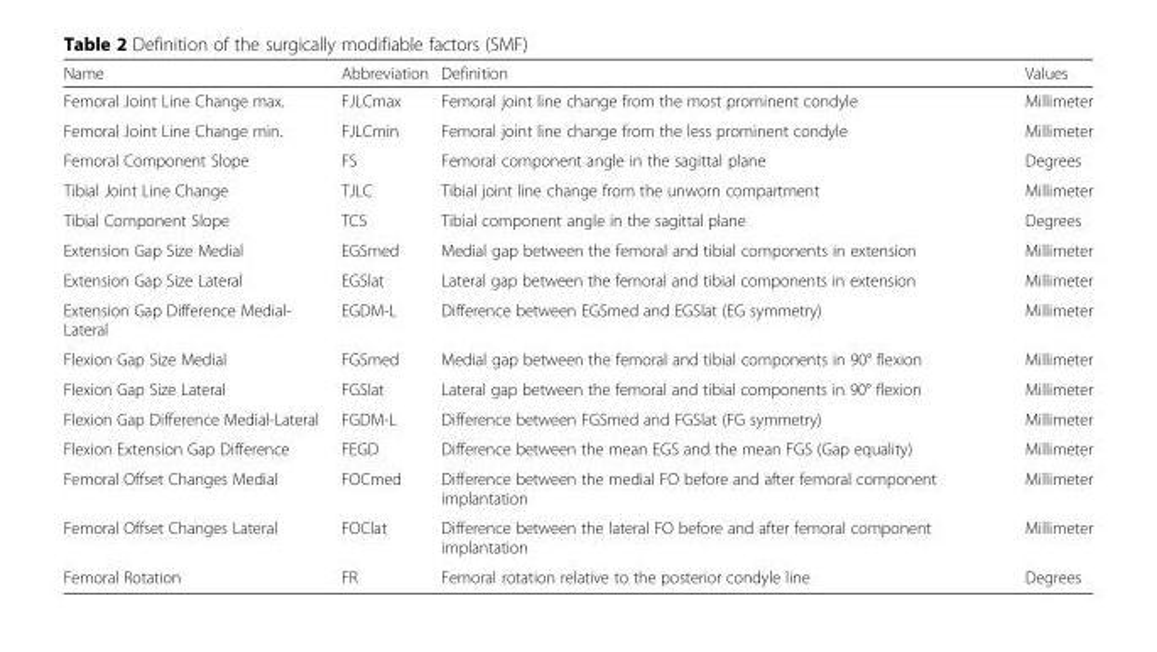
<table><thead><tr><td>Name</td><td>Abbreviation</td><td>Definition</td><td>Values</td></tr></thead><tbody><tr><td>Femoral Joint Line Change max.</td><td>FJLCmax</td><td>Femoral joint line change from the most prominent condyle</td><td>Millimeter</td></tr><tr><td>Femoral Joint Line Change min.</td><td>FJLCmin</td><td>Femoral joint line change from the less prominent condyle</td><td>Millimeter</td></tr><tr><td>Femoral Component Slope</td><td>FS</td><td>Femoral component angle in the sagittal plane</td><td>Degrees</td></tr><tr><td>Tibial Joint Line Change</td><td>TJLC</td><td>Tibial joint line change from the unworn compartment</td><td>Millimeter</td></tr><tr><td>Tibial Component Slope</td><td>TCS</td><td>Tibial component angle in the sagittal plane</td><td>Degrees</td></tr><tr><td>Extension Gap Size Medial</td><td>EGSmed</td><td>Medial gap between the femoral and tibial components in extension</td><td>Millimeter</td></tr><tr><td>Extension Gap Size Lateral</td><td>EGSlat</td><td>Lateral gap between the femoral and tibial components in extension</td><td>Millimeter</td></tr><tr><td>Extension Gap Difference Medial- Lateral</td><td>EGDM-L</td><td>Difference between EGSmed and EGSlat (EG symmetry)</td><td>Millimeter</td></tr><tr><td>Flexion Gap Size Medial</td><td>FGSmed</td><td>Medial gap between the femoral and tibial components in 90° flexion</td><td>Millimeter</td></tr><tr><td>Flexion Gap Size Lateral</td><td>FGSlat</td><td>Lateral gap between the femoral and tibial components in 90° flexion</td><td>Millimeter</td></tr><tr><td>Flexion Gap Difference Medial-Lateral</td><td>FGDM-L</td><td>Difference between FGSmed and FGSlat (FG symmetry)</td><td>Millimeter</td></tr><tr><td>Flexion Extension Gap Difference</td><td>FEGD</td><td>Difference between the mean EGS and the mean FGS (Gap equality)</td><td>Millimeter</td></tr><tr><td>Femoral Offset Changes Medial</td><td>FOCmed</td><td>Difference between the medial FO before and after femoral component implantation</td><td>Millimeter</td></tr><tr><td>Femoral Offset Changes Lateral</td><td>FOClat</td><td>Difference between the lateral FO before and after femoral component implantation</td><td>Millimeter</td></tr><tr><td>Femoral Rotation</td><td>FR</td><td>Femoral rotation relative to the posterior condyle line</td><td>Degrees</td></tr></tbody></table>